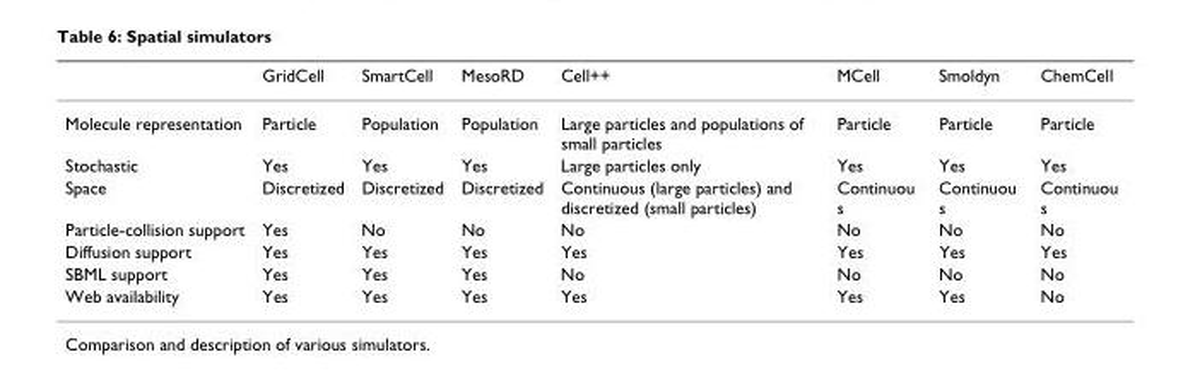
<table><thead><tr><td></td><td>GridCell</td><td>SmartCell</td><td>MesoRD</td><td>Cell++</td><td>MCell</td><td>Smoldyn</td><td>ChemCell</td></tr></thead><tbody><tr><td>Molecule representation</td><td>Particle</td><td>Population</td><td>Population</td><td>Large particles and populations of small particles</td><td>Particle</td><td>Particle</td><td>Particle</td></tr><tr><td>Stochastic</td><td>Yes</td><td>Yes</td><td>Yes</td><td>Large particles only</td><td>Yes</td><td>Yes</td><td>Yes</td></tr><tr><td>Space</td><td>Discretized</td><td>Discretized</td><td>Discretized</td><td>Continuous (large particles) and discretized (small particles)</td><td>Continuou s</td><td>Continuou s</td><td>Continuou s</td></tr><tr><td>Particle-collision support</td><td>Yes</td><td>No</td><td>No</td><td>No</td><td>No</td><td>No</td><td>No</td></tr><tr><td>Diffusion support</td><td>Yes</td><td>Yes</td><td>Yes</td><td>Yes</td><td>Yes</td><td>Yes</td><td>Yes</td></tr><tr><td>SBML support</td><td>Yes</td><td>Yes</td><td>Yes</td><td>No</td><td>No</td><td>No</td><td>No</td></tr><tr><td>Web availability</td><td>Yes</td><td>Yes</td><td>Yes</td><td>Yes</td><td>Yes</td><td>Yes</td><td>No</td></tr></tbody></table>